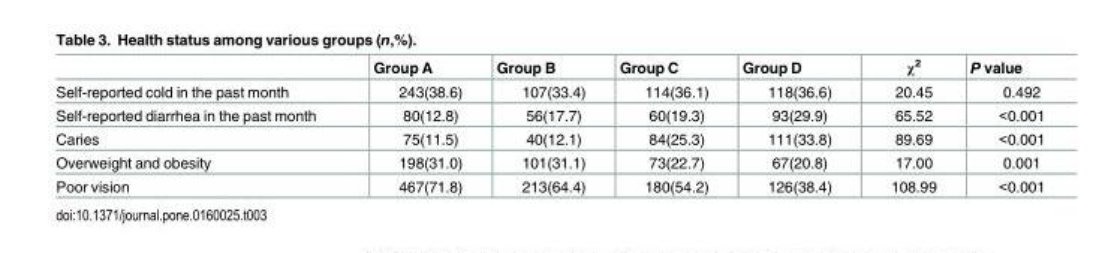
<table><thead><tr><td></td><td>Group A</td><td>Group B</td><td>Group C</td><td>Group D</td><td>χ<sup>2</sup></td><td>P value</td></tr></thead><tbody><tr><td>Self-reported cold in the past month</td><td>243(38.6)</td><td>107(33.4)</td><td>114(36.1)</td><td>118(36.6)</td><td>20.45</td><td>0.492</td></tr><tr><td>Self-reported diarrhea in the past month</td><td>80(12.8)</td><td>56(17.7)</td><td>60(19.3)</td><td>93(29.9)</td><td>65.52</td><td>&lt;0.001</td></tr><tr><td>Caries</td><td>75(11.5)</td><td>40(12.1)</td><td>84(25.3)</td><td>111(33.8)</td><td>89.69</td><td>&lt;0.001</td></tr><tr><td>Overweight and obesity</td><td>198(31.0)</td><td>101(31.1)</td><td>73(22.7)</td><td>67(20.8)</td><td>17.00</td><td>0.001</td></tr><tr><td>Poor vision</td><td>467(71.8)</td><td>213(64.4)</td><td>180(54.2)</td><td>126(38.4)</td><td>108.99</td><td>&lt;0.001</td></tr></tbody></table>